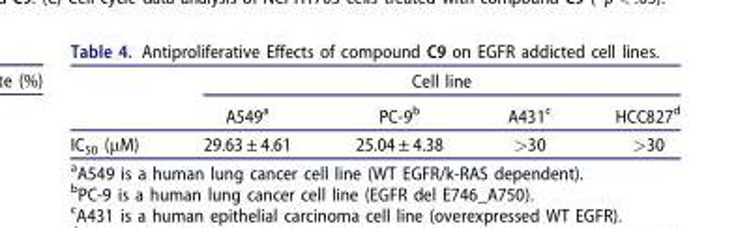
<table><thead><tr><td rowspan="2"></td><td colspan="4">Cell line</td></tr><tr><td>A549<sup>a</sup></td><td>PC-9<sup>b</sup></td><td>A431<sup>c</sup></td><td>HCC827<sup>d</sup></td></tr></thead><tbody><tr><td>IC<sub>50</sub> (μM)</td><td>29.63 ± 4.61</td><td>25.04 ± 4.38</td><td>&gt;30</td><td>&gt;30</td></tr></tbody></table>